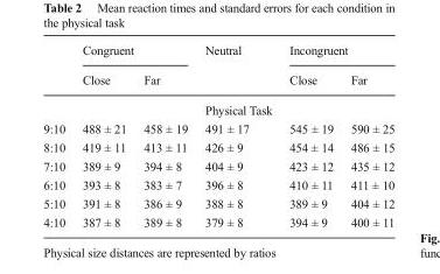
<table><thead><tr><td rowspan="2"></td><td colspan="2">Congruent</td><td rowspan="2">Neutral</td><td colspan="2">Incongruent</td></tr><tr><td>Close</td><td>Far</td><td>Close</td><td>Far</td></tr></thead><tbody><tr><td></td><td></td><td></td><td>Physical Task</td><td></td><td></td></tr><tr><td>9:10</td><td>488 ± 21</td><td>458 ± 19</td><td>491 ± 17</td><td>545 ± 19</td><td>590 ± 25</td></tr><tr><td>8:10</td><td>419 ± 11</td><td>413 ± 11</td><td>426 ± 9</td><td>454 ± 14</td><td>486 ± 15</td></tr><tr><td>7:10</td><td>389 ± 9</td><td>394 ± 8</td><td>404 ± 9</td><td>423 ± 12</td><td>435 ± 12</td></tr><tr><td>6:10</td><td>393 ± 8</td><td>383 ± 7</td><td>396 ± 8</td><td>410 ± 11</td><td>411 ± 10</td></tr><tr><td>5:10</td><td>391 ± 8</td><td>386 ± 9</td><td>388 ± 8</td><td>389 ± 9</td><td>404 ± 12</td></tr><tr><td>4:10</td><td>387 ± 8</td><td>389 ± 8</td><td>379 ± 8</td><td>394 ± 9</td><td>400 ± 11</td></tr></tbody></table>